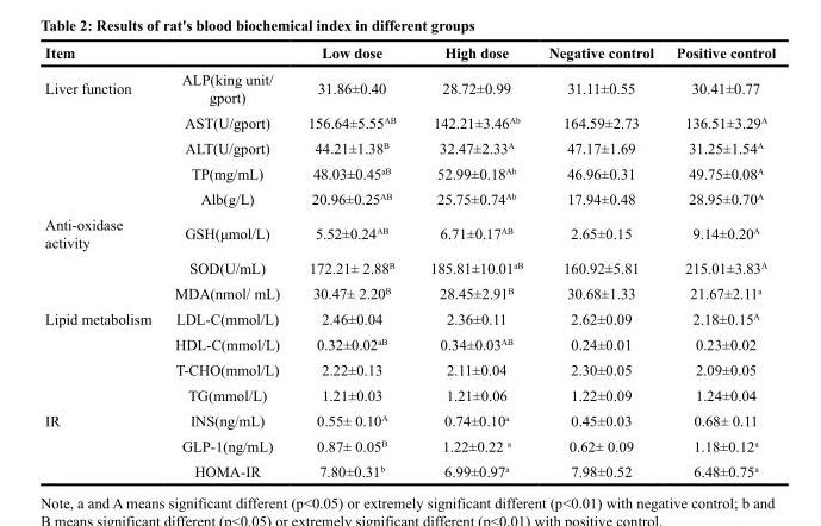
<table><thead><tr><td>Item</td><td></td><td>Low dose</td><td>High dose</td><td>Negative control</td><td>Positive control</td></tr></thead><tbody><tr><td rowspan="5">Liver function</td><td>ALP(king unit/ gport)</td><td>31.86±0.40</td><td>28.72±0.99</td><td>31.11±0.55</td><td>30.41±0.77</td></tr><tr><td>AST(U/gport)</td><td>156.64±5.55<sup>AB</sup></td><td>142.21±3.46<sup>Ab</sup></td><td>164.59±2.73</td><td>136.51±3.29<sup>A</sup></td></tr><tr><td>ALT(U/gport)</td><td>44.21±1.38<sup>B</sup></td><td>32.47±2.33<sup>A</sup></td><td>47.17±1.69</td><td>31.25±1.54<sup>A</sup></td></tr><tr><td>TP(mg/mL)</td><td>48.03±0.45<sup>aB</sup></td><td>52.99±0.18<sup>Ab</sup></td><td>46.96±0.31</td><td>49.75±0.08<sup>A</sup></td></tr><tr><td>Alb(g/L)</td><td>20.96±0.25<sup>AB</sup></td><td>25.75±0.74<sup>Ab</sup></td><td>17.94±0.48</td><td>28.95±0.70<sup>A</sup></td></tr><tr><td rowspan="3">Anti-oxidase activity</td><td>GSH(μmol/L)</td><td>5.52±0.24<sup>AB</sup></td><td>6.71±0.17<sup>AB</sup></td><td>2.65±0.15</td><td>9.14±0.20<sup>A</sup></td></tr><tr><td>SOD(U/mL)</td><td>172.21± 2.88<sup>B</sup></td><td>185.81±10.01<sup>aB</sup></td><td>160.92±5.81</td><td>215.01±3.83<sup>A</sup></td></tr><tr><td>MDA(nmol/ mL)</td><td>30.47± 2.20<sup>B</sup></td><td>28.45±2.91<sup>B</sup></td><td>30.68±1.33</td><td>21.67±2.11<sup>a</sup></td></tr><tr><td rowspan="4">Lipid metabolism</td><td>LDL-C(mmol/L)</td><td>2.46±0.04</td><td>2.36±0.11</td><td>2.62±0.09</td><td>2.18±0.15<sup>A</sup></td></tr><tr><td>HDL-C(mmol/L)</td><td>0.32±0.02<sup>aB</sup></td><td>0.34±0.03<sup>AB</sup></td><td>0.24±0.01</td><td>0.23±0.02</td></tr><tr><td>T-CHO(mmol/L)</td><td>2.22±0.13</td><td>2.11±0.04</td><td>2.30±0.05</td><td>2.09±0.05</td></tr><tr><td>TG(mmol/L)</td><td>1.21±0.03</td><td>1.21±0.06</td><td>1.22±0.09</td><td>1.24±0.04</td></tr><tr><td rowspan="3">IR</td><td>INS(ng/mL)</td><td>0.55± 0.10<sup>A</sup></td><td>0.74±0.10<sup>a</sup></td><td>0.45±0.03</td><td>0.68± 0.11</td></tr><tr><td>GLP-1(ng/mL)</td><td>0.87± 0.05<sup>B</sup></td><td>1.22±0.22 <sup>a</sup></td><td>0.62± 0.09</td><td>1.18±0.12<sup>a</sup></td></tr><tr><td>HOMA-IR</td><td>7.80±0.31<sup>b</sup></td><td>6.99±0.97<sup>a</sup></td><td>7.98±0.52</td><td>6.48±0.75<sup>a</sup></td></tr></tbody></table>